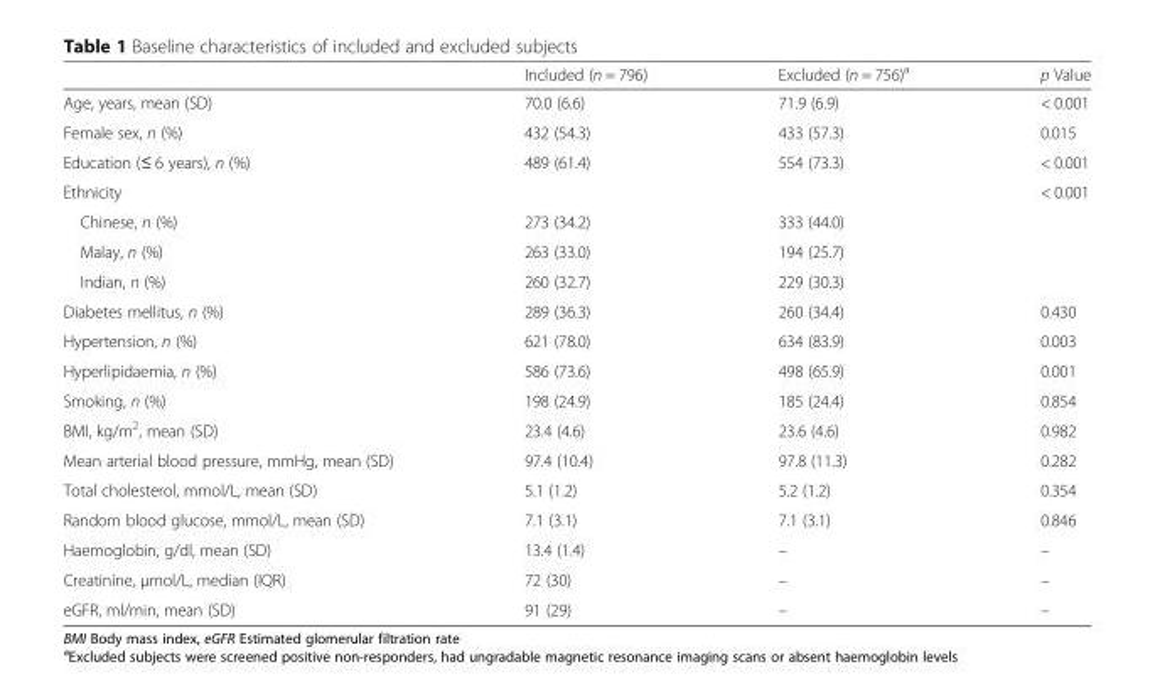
<table><thead><tr><td></td><td>Included (n = 796)</td><td>Excluded (n = 756)<sup>a</sup></td><td>p Value</td></tr></thead><tbody><tr><td>Age, years, mean (SD)</td><td>70.0 (6.6)</td><td>71.9 (6.9)</td><td>&lt; 0.001</td></tr><tr><td>Female sex, n (%)</td><td>432 (54.3)</td><td>433 (57.3)</td><td>0.015</td></tr><tr><td>Education (≤ 6 years), n (%)</td><td>489 (61.4)</td><td>554 (73.3)</td><td>&lt; 0.001</td></tr><tr><td colspan="3">Ethnicity</td><td rowspan="4">&lt; 0.001</td></tr><tr><td>Chinese, n (%)</td><td>273 (34.2)</td><td>333 (44.0)</td></tr><tr><td>Malay, n (%)</td><td>263 (33.0)</td><td>194 (25.7)</td></tr><tr><td>Indian, n (%)</td><td>260 (32.7)</td><td>229 (30.3)</td></tr><tr><td>Diabetes mellitus, n (%)</td><td>289 (36.3)</td><td>260 (34.4)</td><td>0.430</td></tr><tr><td>Hypertension, n (%)</td><td>621 (78.0)</td><td>634 (83.9)</td><td>0.003</td></tr><tr><td>Hyperlipidaemia, n (%)</td><td>586 (73.6)</td><td>498 (65.9)</td><td>0.001</td></tr><tr><td>Smoking, n (%)</td><td>198 (24.9)</td><td>185 (24.4)</td><td>0.854</td></tr><tr><td>BMI, kg/m<sup>2</sup>, mean (SD)</td><td>23.4 (4.6)</td><td>23.6 (4.6)</td><td>0.982</td></tr><tr><td>Mean arterial blood pressure, mmHg, mean (SD)</td><td>97.4 (10.4)</td><td>97.8 (11.3)</td><td>0.282</td></tr><tr><td>Total cholesterol, mmol/L, mean (SD)</td><td>5.1 (1.2)</td><td>5.2 (1.2)</td><td>0.354</td></tr><tr><td>Random blood glucose, mmol/L, mean (SD)</td><td>7.1 (3.1)</td><td>7.1 (3.1)</td><td>0.846</td></tr><tr><td>Haemoglobin, g/dl, mean (SD)</td><td>13.4 (1.4)</td><td>–</td><td>–</td></tr><tr><td>Creatinine, μmol/L, median (IQR)</td><td>72 (30)</td><td>–</td><td>–</td></tr><tr><td>eGFR, ml/min, mean (SD)</td><td>91 (29)</td><td>–</td><td>–</td></tr></tbody></table>